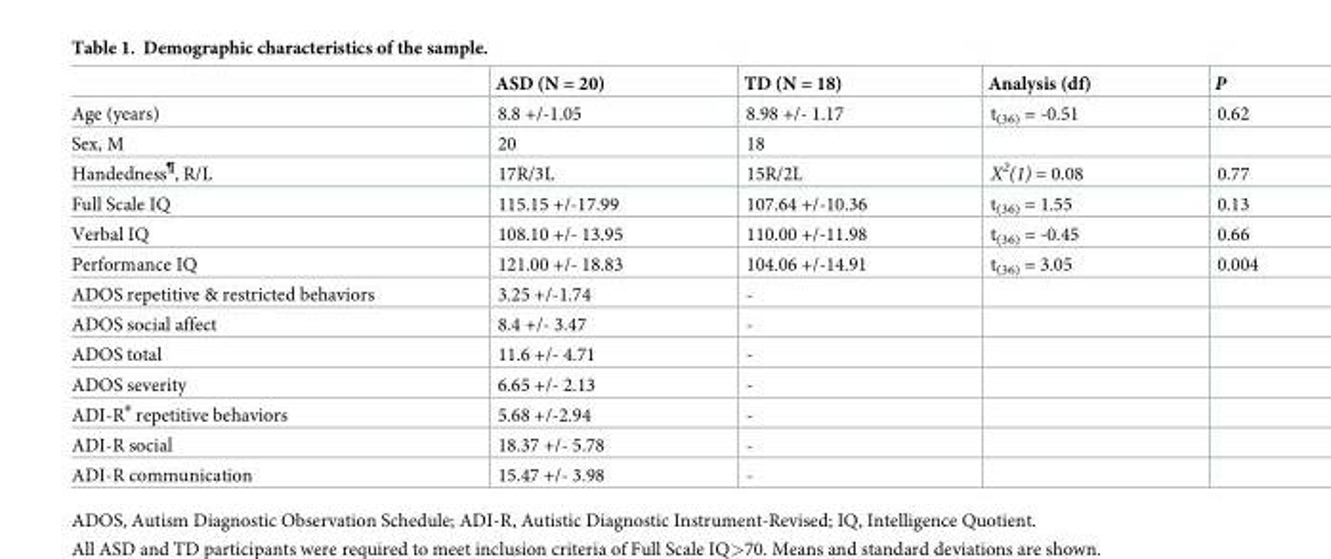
<table><thead><tr><td></td><td>ASD (N = 20)</td><td>TD (N = 18)</td><td>Analysis (df)</td><td>P</td></tr></thead><tbody><tr><td>Age (years)</td><td>8.8 +/-1.05</td><td>8.98 +/- 1.17</td><td>t<sub>(36)</sub> = -0.51</td><td>0.62</td></tr><tr><td>Sex, M</td><td>20</td><td>18</td><td></td><td></td></tr><tr><td>Handedness<sup>¶</sup>, R/L</td><td>17R/3L</td><td>15R/2L</td><td>Χ<sup>2</sup>(1) = 0.08</td><td>0.77</td></tr><tr><td>Full Scale IQ</td><td>115.15 +/-17.99</td><td>107.64 +/-10.36</td><td>t<sub>(36)</sub> = 1.55</td><td>0.13</td></tr><tr><td>Verbal IQ</td><td>108.10 +/- 13.95</td><td>110.00 +/-11.98</td><td>t<sub>(36)</sub> = -0.45</td><td>0.66</td></tr><tr><td>Performance IQ</td><td>121.00 +/- 18.83</td><td>104.06 +/-14.91</td><td>t<sub>(36)</sub> = 3.05</td><td>0.004</td></tr><tr><td>ADOS repetitive &amp; restricted behaviors</td><td>3.25 +/-1.74</td><td>-</td><td></td><td></td></tr><tr><td>ADOS social affect</td><td>8.4 +/- 3.47</td><td>-</td><td></td><td></td></tr><tr><td>ADOS total</td><td>11.6 +/- 4.71</td><td>-</td><td></td><td></td></tr><tr><td>ADOS severity</td><td>6.65 +/- 2.13</td><td>-</td><td></td><td></td></tr><tr><td>ADI-R<sup>#</sup> repetitive behaviors</td><td>5.68 +/-2.94</td><td>-</td><td></td><td></td></tr><tr><td>ADI-R social</td><td>18.37 +/- 5.78</td><td>-</td><td></td><td></td></tr><tr><td>ADI-R communication</td><td>15.47 +/- 3.98</td><td>-</td><td></td><td></td></tr></tbody></table>